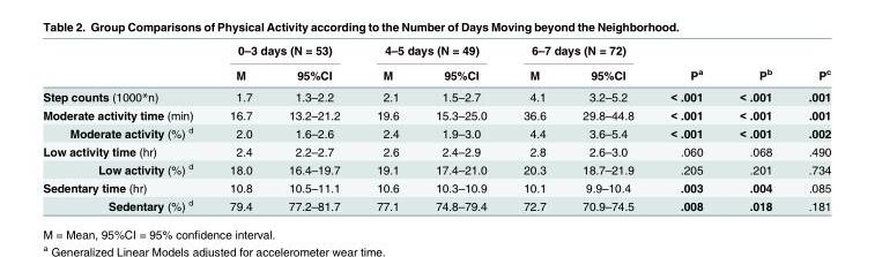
<table><thead><tr><td rowspan="2"></td><td colspan="2">0–3 days (N = 53)</td><td colspan="2">4–5 days (N = 49)</td><td colspan="2">6–7 days (N = 72)</td><td rowspan="2">P<sup>a</sup></td><td rowspan="2">P<sup>b</sup></td><td rowspan="2">P<sup>c</sup></td></tr><tr><td>M</td><td>95%CI</td><td>M</td><td>95%CI</td><td>M</td><td>95%CI</td></tr></thead><tbody><tr><td>Step counts (1000*n)</td><td>1.7</td><td>1.3–2.2</td><td>2.1</td><td>1.5–2.7</td><td>4.1</td><td>3.2–5.2</td><td>&lt; .001</td><td>&lt; .001</td><td>.001</td></tr><tr><td>Moderate activity time (min)</td><td>16.7</td><td>13.2–21.2</td><td>19.6</td><td>15.3–25.0</td><td>36.6</td><td>29.8–44.8</td><td>&lt; .001</td><td>&lt; .001</td><td>.001</td></tr><tr><td>Moderate activity (%) <sup>d</sup></td><td>2.0</td><td>1.6–2.6</td><td>2.4</td><td>1.9–3.0</td><td>4.4</td><td>3.6–5.4</td><td>&lt; .001</td><td>&lt; .001</td><td>.002</td></tr><tr><td>Low activity time (hr)</td><td>2.4</td><td>2.2–2.7</td><td>2.6</td><td>2.4–2.9</td><td>2.8</td><td>2.6–3.0</td><td>.060</td><td>.068</td><td>.490</td></tr><tr><td>Low activity (%) <sup>d</sup></td><td>18.0</td><td>16.4–19.7</td><td>19.1</td><td>17.4–21.0</td><td>20.3</td><td>18.7–21.9</td><td>.205</td><td>.201</td><td>.734</td></tr><tr><td>Sedentary time (hr)</td><td>10.8</td><td>10.5–11.1</td><td>10.6</td><td>10.3–10.9</td><td>10.1</td><td>9.9–10.4</td><td>.003</td><td>.004</td><td>.085</td></tr><tr><td>Sedentary (%) <sup>d</sup></td><td>79.4</td><td>77.2–81.7</td><td>77.1</td><td>74.8–79.4</td><td>72.7</td><td>70.9–74.5</td><td>.008</td><td>.018</td><td>.181</td></tr></tbody></table>